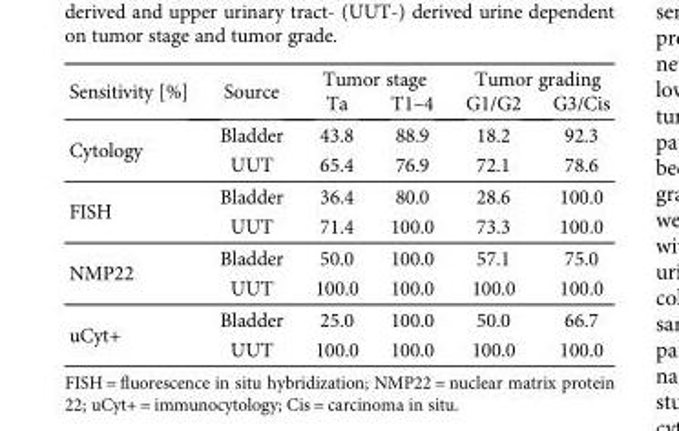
<table><thead><tr><td rowspan="2">Sensitivity [%]</td><td rowspan="2">Source</td><td colspan="2">Tumor stage</td><td colspan="2">Tumor grading</td></tr><tr><td>Ta</td><td>T1–4</td><td>G1/G2</td><td>G3/Cis</td></tr></thead><tbody><tr><td rowspan="2">Cytology</td><td>Bladder</td><td>43.8</td><td>88.9</td><td>18.2</td><td>92.3</td></tr><tr><td>UUT</td><td>65.4</td><td>76.9</td><td>72.1</td><td>78.6</td></tr><tr><td rowspan="2">FISH</td><td>Bladder</td><td>36.4</td><td>80.0</td><td>28.6</td><td>100.0</td></tr><tr><td>UUT</td><td>71.4</td><td>100.0</td><td>73.3</td><td>100.0</td></tr><tr><td rowspan="2">NMP22</td><td>Bladder</td><td>50.0</td><td>100.0</td><td>57.1</td><td>75.0</td></tr><tr><td>UUT</td><td>100.0</td><td>100.0</td><td>100.0</td><td>100.0</td></tr><tr><td rowspan="2">uCyt+</td><td>Bladder</td><td>25.0</td><td>100.0</td><td>50.0</td><td>66.7</td></tr><tr><td>UUT</td><td>100.0</td><td>100.0</td><td>100.0</td><td>100.0</td></tr></tbody></table>